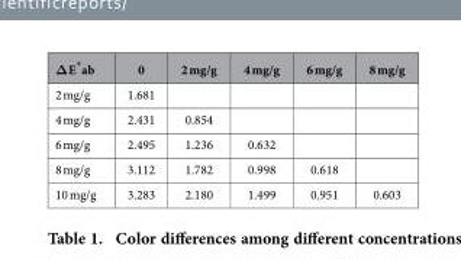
<table><thead><tr><td>Δ E*ab</td><td>0</td><td>2 mg/g</td><td>4 mg/g</td><td>6 mg/g</td><td>8 mg/g</td></tr></thead><tbody><tr><td>2 mg/g</td><td>1.681</td><td></td><td></td><td></td><td></td></tr><tr><td>4 mg/g</td><td>2.431</td><td>0.854</td><td></td><td></td><td></td></tr><tr><td>6 mg/g</td><td>2.495</td><td>1.236</td><td>0.632</td><td></td><td></td></tr><tr><td>8 mg/g</td><td>3.112</td><td>1.782</td><td>0.998</td><td>0.618</td><td></td></tr><tr><td>10 mg/g</td><td>3.283</td><td>2.180</td><td>1.499</td><td>0.951</td><td>0.603</td></tr></tbody></table>